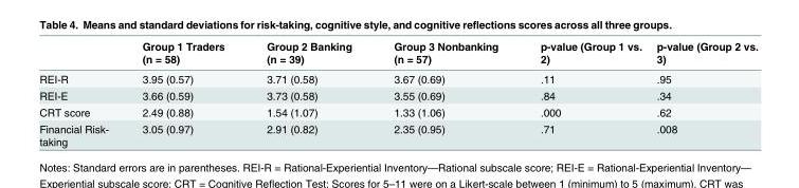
<table><thead><tr><td></td><td>Group 1 Traders (n = 58)</td><td>Group 2 Banking (n = 39)</td><td>Group 3 Nonbanking (n = 57)</td><td>p-value (Group 1 vs. 2)</td><td>p-value (Group 2 vs. 3)</td></tr></thead><tbody><tr><td>REI-R</td><td>3.95 (0.57)</td><td>3.71 (0.58)</td><td>3.67 (0.69)</td><td>.11</td><td>.95</td></tr><tr><td>REI-E</td><td>3.66 (0.59)</td><td>3.73 (0.58)</td><td>3.55 (0.69)</td><td>.84</td><td>.34</td></tr><tr><td>CRT score</td><td>2.49 (0.88)</td><td>1.54 (1.07)</td><td>1.33 (1.06)</td><td>.000</td><td>.62</td></tr><tr><td>Financial Risk- taking</td><td>3.05 (0.97)</td><td>2.91 (0.82)</td><td>2.35 (0.95)</td><td>.71</td><td>.008</td></tr></tbody></table>